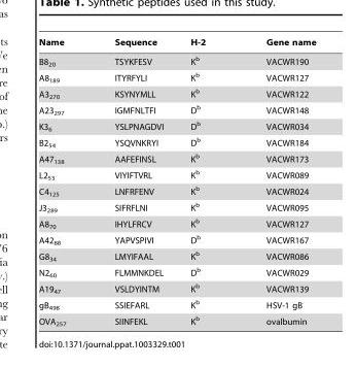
<table><thead><tr><td>Name</td><td>Sequence</td><td>H-2</td><td>Gene name</td></tr></thead><tbody><tr><td>B8<sub>20</sub></td><td>TSYKFESV</td><td>K<sup>b</sup></td><td>VACWR190</td></tr><tr><td>A8<sub>189</sub></td><td>ITYRFYLI</td><td>K<sup>b</sup></td><td>VACWR127</td></tr><tr><td>A3<sub>270</sub></td><td>KSYNYMLL</td><td>K<sup>b</sup></td><td>VACWR122</td></tr><tr><td>A23<sub>297</sub></td><td>IGMFNLTFI</td><td>D<sup>b</sup></td><td>VACWR148</td></tr><tr><td>K3<sub>6</sub></td><td>YSLPNAGDVI</td><td>D<sup>b</sup></td><td>VACWR034</td></tr><tr><td>B2<sub>54</sub></td><td>YSQVNKRYI</td><td>D<sup>b</sup></td><td>VACWR184</td></tr><tr><td>A47<sub>138</sub></td><td>AAFEFINSL</td><td>K<sup>b</sup></td><td>VACWR173</td></tr><tr><td>L2<sub>53</sub></td><td>VIYIFTVRL</td><td>K<sup>b</sup></td><td>VACWR089</td></tr><tr><td>C4<sub>125</sub></td><td>LNFRFENV</td><td>K<sup>b</sup></td><td>VACWR024</td></tr><tr><td>J3<sub>289</sub></td><td>SIFRFLNI</td><td>K<sup>b</sup></td><td>VACWR095</td></tr><tr><td>A8<sub>70</sub></td><td>IHYLFRCV</td><td>K<sup>b</sup></td><td>VACWR127</td></tr><tr><td>A42<sub>88</sub></td><td>YAPVSPIVI</td><td>D<sup>b</sup></td><td>VACWR167</td></tr><tr><td>G8<sub>34</sub></td><td>LMYIFAAL</td><td>K<sup>b</sup></td><td>VACWR086</td></tr><tr><td>N2<sub>60</sub></td><td>FLMMNKDEL</td><td>D<sup>b</sup></td><td>VACWR029</td></tr><tr><td>A19<sub>47</sub></td><td>VSLDYINTM</td><td>K<sup>b</sup></td><td>VACWR139</td></tr><tr><td>gB<sub>498</sub></td><td>SSIEFARL</td><td>K<sup>b</sup></td><td>HSV-1 gB</td></tr><tr><td>OVA<sub>257</sub></td><td>SIINFEKL</td><td>K<sup>b</sup></td><td>ovalbumin</td></tr></tbody></table>